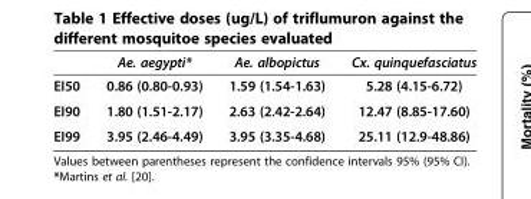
<table><thead><tr><td></td><td>Ae. aegypti*</td><td>Ae. albopictus</td><td>Cx. quinquefasciatus</td></tr></thead><tbody><tr><td>EI50</td><td>0.86 (0.80-0.93)</td><td>1.59 (1.54-1.63)</td><td>5.28 (4.15-6.72)</td></tr><tr><td>EI90</td><td>1.80 (1.51-2.17)</td><td>2.63 (2.42-2.64)</td><td>12.47 (8.85-17.60)</td></tr><tr><td>EI99</td><td>3.95 (2.46-4.49)</td><td>3.95 (3.35-4.68)</td><td>25.11 (12.9-48.86)</td></tr></tbody></table>